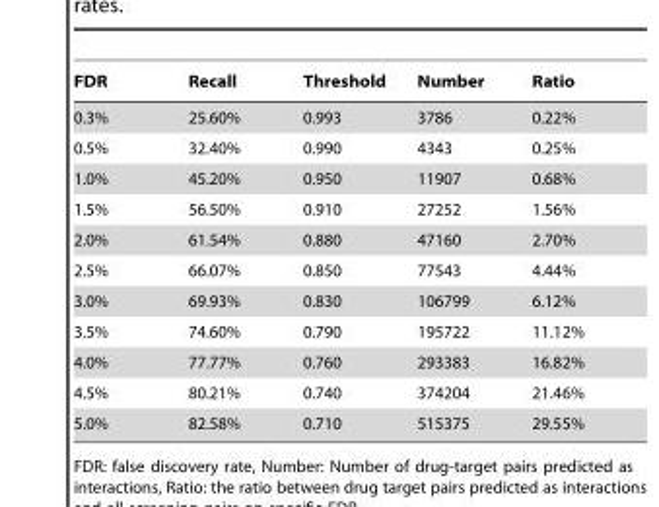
<table><thead><tr><td>FDR</td><td>Recall</td><td>Threshold</td><td>Number</td><td>Ratio</td></tr></thead><tbody><tr><td>0.3%</td><td>25.60%</td><td>0.993</td><td>3786</td><td>0.22%</td></tr><tr><td>0.5%</td><td>32.40%</td><td>0.990</td><td>4343</td><td>0.25%</td></tr><tr><td>1.0%</td><td>45.20%</td><td>0.950</td><td>11907</td><td>0.68%</td></tr><tr><td>1.5%</td><td>56.50%</td><td>0.910</td><td>27252</td><td>1.56%</td></tr><tr><td>2.0%</td><td>61.54%</td><td>0.880</td><td>47160</td><td>2.70%</td></tr><tr><td>2.5%</td><td>66.07%</td><td>0.850</td><td>77543</td><td>4.44%</td></tr><tr><td>3.0%</td><td>69.93%</td><td>0.830</td><td>106799</td><td>6.12%</td></tr><tr><td>3.5%</td><td>74.60%</td><td>0.790</td><td>195722</td><td>11.12%</td></tr><tr><td>4.0%</td><td>77.77%</td><td>0.760</td><td>293383</td><td>16.82%</td></tr><tr><td>4.5%</td><td>80.21%</td><td>0.740</td><td>374204</td><td>21.46%</td></tr><tr><td>5.0%</td><td>82.58%</td><td>0.710</td><td>515375</td><td>29.55%</td></tr></tbody></table>